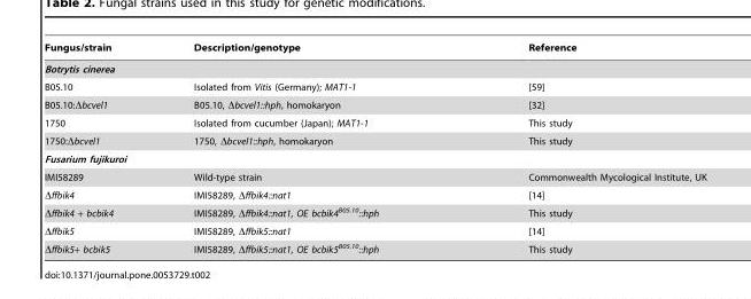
<table><thead><tr><td>Fungus/strain</td><td>Description/genotype</td><td>Reference</td></tr></thead><tbody><tr><td colspan="3">Botrytis cinerea</td></tr><tr><td>B05.10</td><td>Isolated from Vitis (Germany); MAT1-1</td><td>[59]</td></tr><tr><td>B05.10:Δbcvel1</td><td>B05.10, Δbcvel1::hph, homokaryon</td><td>[32]</td></tr><tr><td>1750</td><td>Isolated from cucumber (Japan); MAT1-1</td><td>This study</td></tr><tr><td>1750:Δbcvel1</td><td>1750, Δbcvel1::hph, homokaryon</td><td>This study</td></tr><tr><td colspan="3">Fusarium fujikuroi</td></tr><tr><td>IMI58289</td><td>Wild-type strain</td><td>Commonwealth Mycological Institute, UK</td></tr><tr><td>Δffbik4</td><td>IMI58289, Δffbik4::nat1</td><td>[14]</td></tr><tr><td>Δffbik4 + bcbik4</td><td>IMI58289, Δffbik4::nat1, OE bcbik4<sup>B05.10</sup>::hph</td><td>This study</td></tr><tr><td>Δffbik5</td><td>IMI58289, Δffbik5::nat1</td><td>[14]</td></tr><tr><td>Δffbik5+ bcbik5</td><td>IMI58289, Δffbik5::nat1, OE bcbik5<sup>B05.10</sup>::hph</td><td>This study</td></tr></tbody></table>